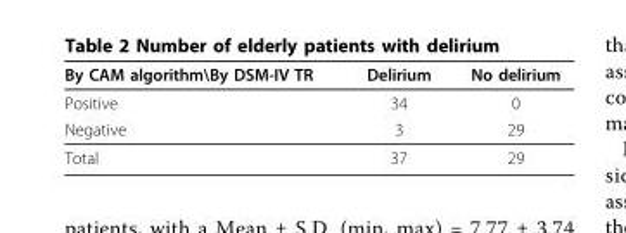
<table><thead><tr><td>By CAM algorithm\By DSM-IV TR</td><td>Delirium</td><td>No delirium</td></tr></thead><tbody><tr><td>Positive</td><td>34</td><td>0</td></tr><tr><td>Negative</td><td>3</td><td>29</td></tr><tr><td>Total</td><td>37</td><td>29</td></tr></tbody></table>